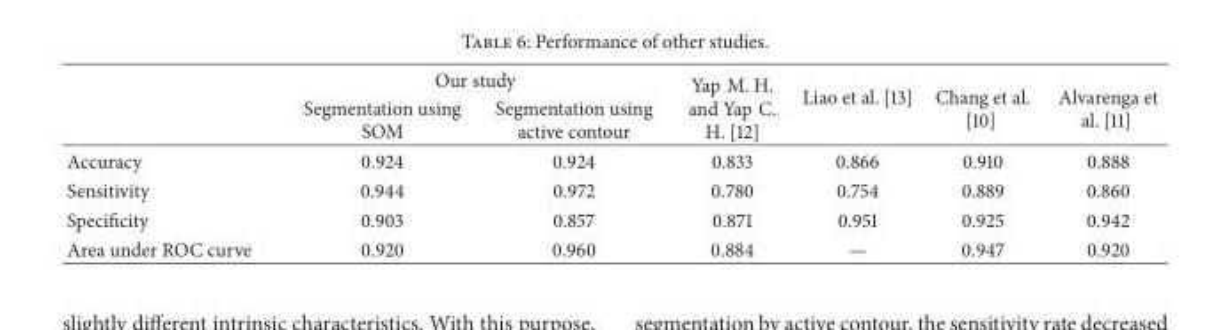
<table><thead><tr><td rowspan="2"></td><td colspan="2">Our study</td><td rowspan="2">Yap M. H. and Yap C. H. [12]</td><td rowspan="2">Liao et al. [13]</td><td rowspan="2">Chang et al. [10]</td><td rowspan="2">Alvarenga et al. [11]</td></tr><tr><td>Segmentation using SOM</td><td>Segmentation using active contour</td></tr></thead><tbody><tr><td>Accuracy</td><td>0.924</td><td>0.924</td><td>0.833</td><td>0.866</td><td>0.910</td><td>0.888</td></tr><tr><td>Sensitivity</td><td>0.944</td><td>0.972</td><td>0.780</td><td>0.754</td><td>0.889</td><td>0.860</td></tr><tr><td>Specificity</td><td>0.903</td><td>0.857</td><td>0.871</td><td>0.951</td><td>0.925</td><td>0.942</td></tr><tr><td>Area under ROC curve</td><td>0.920</td><td>0.960</td><td>0.884</td><td>—</td><td>0.947</td><td>0.920</td></tr></tbody></table>